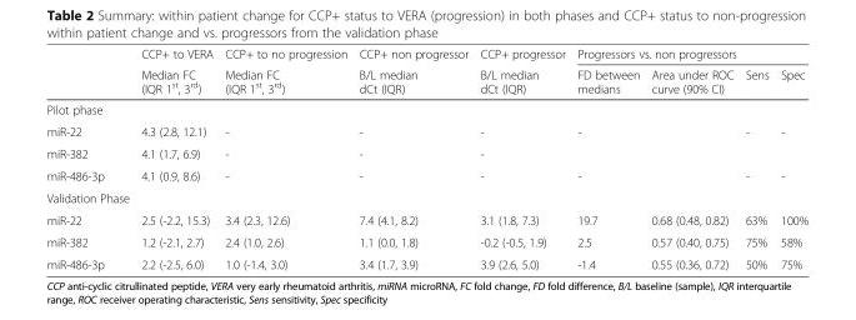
<table><thead><tr><td rowspan="2"></td><td rowspan="2">CCP+ to VERA Median FC (IQR 1<sup>st</sup>, 3<sup>rd</sup>)</td><td rowspan="2">CCP+ to no progression Median FC (IQR 1<sup>st</sup>, 3<sup>rd</sup>)</td><td rowspan="2">CCP+ non progressor B/L median dCt (IQR)</td><td rowspan="2">CCP+ progressor B/L median dCt (IQR)</td><td colspan="4">Progressors vs. non progressors</td></tr><tr><td>FD between medians</td><td>Area under ROC curve (90% CI)</td><td>Sens</td><td>Spec</td></tr></thead><tbody><tr><td colspan="9">Pilot phase</td></tr><tr><td>miR-22</td><td>4.3 (2.8, 12.1)</td><td>-</td><td>-</td><td>-</td><td colspan="2">-</td><td>-</td><td>-</td></tr><tr><td>miR-382</td><td>4.1 (1.7, 6.9)</td><td>-</td><td>-</td><td>-</td><td colspan="2"></td><td></td><td></td></tr><tr><td>miR-486-3p</td><td>4.1 (0.9, 8.6)</td><td>-</td><td>-</td><td>-</td><td colspan="2">-</td><td>-</td><td>-</td></tr><tr><td colspan="9">Validation Phase</td></tr><tr><td>miR-22</td><td>2.5 (-2.2, 15.3)</td><td>3.4 (2.3, 12.6)</td><td>7.4 (4.1, 8.2)</td><td>3.1 (1.8, 7.3)</td><td>19.7</td><td>0.68 (0.48, 0.82)</td><td>63%</td><td>100%</td></tr><tr><td>miR-382</td><td>1.2 (-2.1, 2.7)</td><td>2.4 (1.0, 2.6)</td><td>1.1 (0.0, 1.8)</td><td>-0.2 (-0.5, 1.9)</td><td>2.5</td><td>0.57 (0.40, 0.75)</td><td>75%</td><td>58%</td></tr><tr><td>miR-486-3p</td><td>2.2 (-2.5, 6.0)</td><td>1.0 (-1.4, 3.0)</td><td>3.4 (1.7, 3.9)</td><td>3.9 (2.6, 5.0)</td><td>-1.4</td><td>0.55 (0.36, 0.72)</td><td>50%</td><td>75%</td></tr></tbody></table>